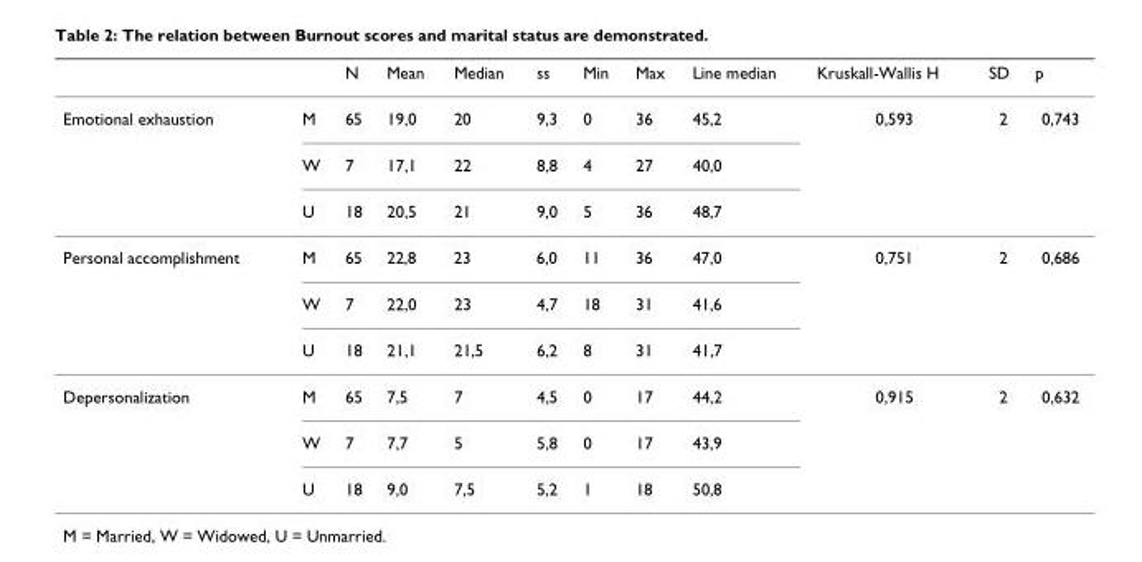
<table><thead><tr><td></td><td></td><td>N</td><td>Mean</td><td>Median</td><td>ss</td><td>Min</td><td>Max</td><td>Line median</td><td>Kruskall-Wallis H</td><td>SD</td><td>p</td></tr></thead><tbody><tr><td rowspan="3">Emotional exhaustion</td><td>M</td><td>65</td><td>19,0</td><td>20</td><td>9,3</td><td>0</td><td>36</td><td>45,2</td><td>0,593</td><td>2</td><td>0,743</td></tr><tr><td>W</td><td>7</td><td>17,1</td><td>22</td><td>8,8</td><td>4</td><td>27</td><td>40,0</td><td></td><td></td><td></td></tr><tr><td>U</td><td>18</td><td>20,5</td><td>21</td><td>9,0</td><td>5</td><td>36</td><td>48,7</td><td></td><td></td><td></td></tr><tr><td rowspan="3">Personal accomplishment</td><td>M</td><td>65</td><td>22,8</td><td>23</td><td>6,0</td><td>11</td><td>36</td><td>47,0</td><td>0,751</td><td>2</td><td>0,686</td></tr><tr><td>W</td><td>7</td><td>22,0</td><td>23</td><td>4,7</td><td>18</td><td>31</td><td>41,6</td><td></td><td></td><td></td></tr><tr><td>U</td><td>18</td><td>21,1</td><td>21,5</td><td>6,2</td><td>8</td><td>31</td><td>41,7</td><td></td><td></td><td></td></tr><tr><td rowspan="3">Depersonalization</td><td>M</td><td>65</td><td>7,5</td><td>7</td><td>4,5</td><td>0</td><td>17</td><td>44,2</td><td>0,915</td><td>2</td><td>0,632</td></tr><tr><td>W</td><td>7</td><td>7,7</td><td>5</td><td>5,8</td><td>0</td><td>17</td><td>43,9</td><td></td><td></td><td></td></tr><tr><td>U</td><td>18</td><td>9,0</td><td>7,5</td><td>5,2</td><td>1</td><td>18</td><td>50,8</td><td></td><td></td><td></td></tr></tbody></table>